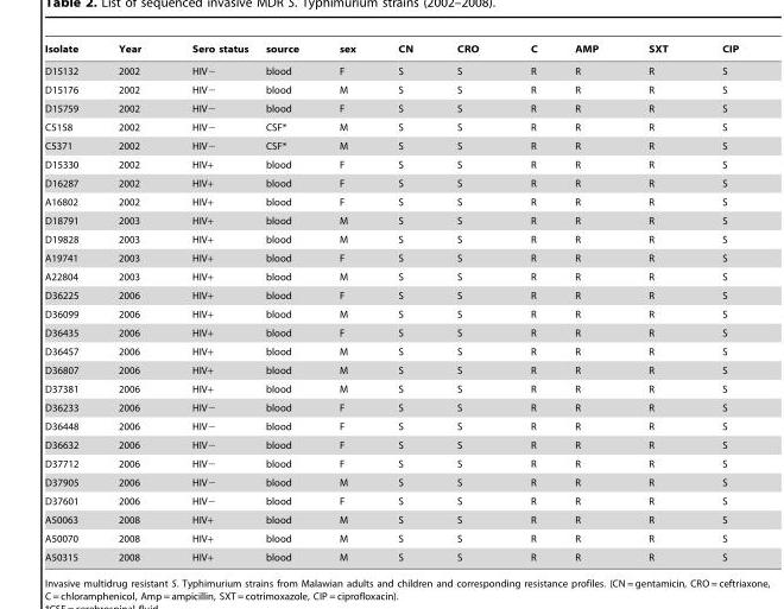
<table><thead><tr><td>Isolate</td><td>Year</td><td>Sero status</td><td>source</td><td>sex</td><td>CN</td><td>CRO</td><td>C</td><td>AMP</td><td>SXT</td><td>CIP</td></tr></thead><tbody><tr><td>D15132</td><td>2002</td><td>HIV−</td><td>blood</td><td>F</td><td>S</td><td>S</td><td>R</td><td>R</td><td>R</td><td>S</td></tr><tr><td>D15176</td><td>2002</td><td>HIV−</td><td>blood</td><td>M</td><td>S</td><td>S</td><td>R</td><td>R</td><td>R</td><td>S</td></tr><tr><td>D15759</td><td>2002</td><td>HIV−</td><td>blood</td><td>F</td><td>S</td><td>S</td><td>R</td><td>R</td><td>R</td><td>S</td></tr><tr><td>C5158</td><td>2002</td><td>HIV−</td><td>CSF*</td><td>M</td><td>S</td><td>S</td><td>R</td><td>R</td><td>R</td><td>S</td></tr><tr><td>C5371</td><td>2002</td><td>HIV−</td><td>CSF*</td><td>M</td><td>S</td><td>S</td><td>R</td><td>R</td><td>R</td><td>S</td></tr><tr><td>D15330</td><td>2002</td><td>HIV+</td><td>blood</td><td>F</td><td>S</td><td>S</td><td>R</td><td>R</td><td>R</td><td>S</td></tr><tr><td>D16287</td><td>2002</td><td>HIV+</td><td>blood</td><td>F</td><td>S</td><td>S</td><td>R</td><td>R</td><td>R</td><td>S</td></tr><tr><td>A16802</td><td>2002</td><td>HIV+</td><td>blood</td><td>F</td><td>S</td><td>S</td><td>R</td><td>R</td><td>R</td><td>S</td></tr><tr><td>D18791</td><td>2003</td><td>HIV+</td><td>blood</td><td>M</td><td>S</td><td>S</td><td>R</td><td>R</td><td>R</td><td>S</td></tr><tr><td>D19828</td><td>2003</td><td>HIV+</td><td>blood</td><td>M</td><td>S</td><td>S</td><td>R</td><td>R</td><td>R</td><td>S</td></tr><tr><td>A19741</td><td>2003</td><td>HIV+</td><td>blood</td><td>F</td><td>S</td><td>S</td><td>R</td><td>R</td><td>R</td><td>S</td></tr><tr><td>A22804</td><td>2003</td><td>HIV+</td><td>blood</td><td>M</td><td>S</td><td>S</td><td>R</td><td>R</td><td>R</td><td>S</td></tr><tr><td>D36225</td><td>2006</td><td>HIV+</td><td>blood</td><td>F</td><td>S</td><td>S</td><td>R</td><td>R</td><td>R</td><td>S</td></tr><tr><td>D36099</td><td>2006</td><td>HIV+</td><td>blood</td><td>M</td><td>S</td><td>S</td><td>R</td><td>R</td><td>R</td><td>S</td></tr><tr><td>D36435</td><td>2006</td><td>HIV+</td><td>blood</td><td>F</td><td>S</td><td>S</td><td>R</td><td>R</td><td>R</td><td>S</td></tr><tr><td>D36457</td><td>2006</td><td>HIV+</td><td>blood</td><td>M</td><td>S</td><td>S</td><td>R</td><td>R</td><td>R</td><td>S</td></tr><tr><td>D36807</td><td>2006</td><td>HIV+</td><td>blood</td><td>M</td><td>S</td><td>S</td><td>R</td><td>R</td><td>R</td><td>S</td></tr><tr><td>D37381</td><td>2006</td><td>HIV+</td><td>blood</td><td>M</td><td>S</td><td>S</td><td>R</td><td>R</td><td>R</td><td>S</td></tr><tr><td>D36233</td><td>2006</td><td>HIV−</td><td>blood</td><td>F</td><td>S</td><td>S</td><td>R</td><td>R</td><td>R</td><td>S</td></tr><tr><td>D36448</td><td>2006</td><td>HIV−</td><td>blood</td><td>F</td><td>S</td><td>S</td><td>R</td><td>R</td><td>R</td><td>S</td></tr><tr><td>D36632</td><td>2006</td><td>HIV−</td><td>blood</td><td>F</td><td>S</td><td>S</td><td>R</td><td>R</td><td>R</td><td>S</td></tr><tr><td>D37712</td><td>2006</td><td>HIV−</td><td>blood</td><td>F</td><td>S</td><td>S</td><td>R</td><td>R</td><td>R</td><td>S</td></tr><tr><td>D37905</td><td>2006</td><td>HIV−</td><td>blood</td><td>M</td><td>S</td><td>S</td><td>R</td><td>R</td><td>R</td><td>S</td></tr><tr><td>D37601</td><td>2006</td><td>HIV−</td><td>blood</td><td>F</td><td>S</td><td>S</td><td>R</td><td>R</td><td>R</td><td>S</td></tr><tr><td>A50063</td><td>2008</td><td>HIV+</td><td>blood</td><td>M</td><td>S</td><td>S</td><td>R</td><td>R</td><td>R</td><td>S</td></tr><tr><td>A50070</td><td>2008</td><td>HIV+</td><td>blood</td><td>M</td><td>S</td><td>S</td><td>R</td><td>R</td><td>R</td><td>S</td></tr><tr><td>A50315</td><td>2008</td><td>HIV+</td><td>blood</td><td>M</td><td>S</td><td>S</td><td>R</td><td>R</td><td>R</td><td>S</td></tr></tbody></table>